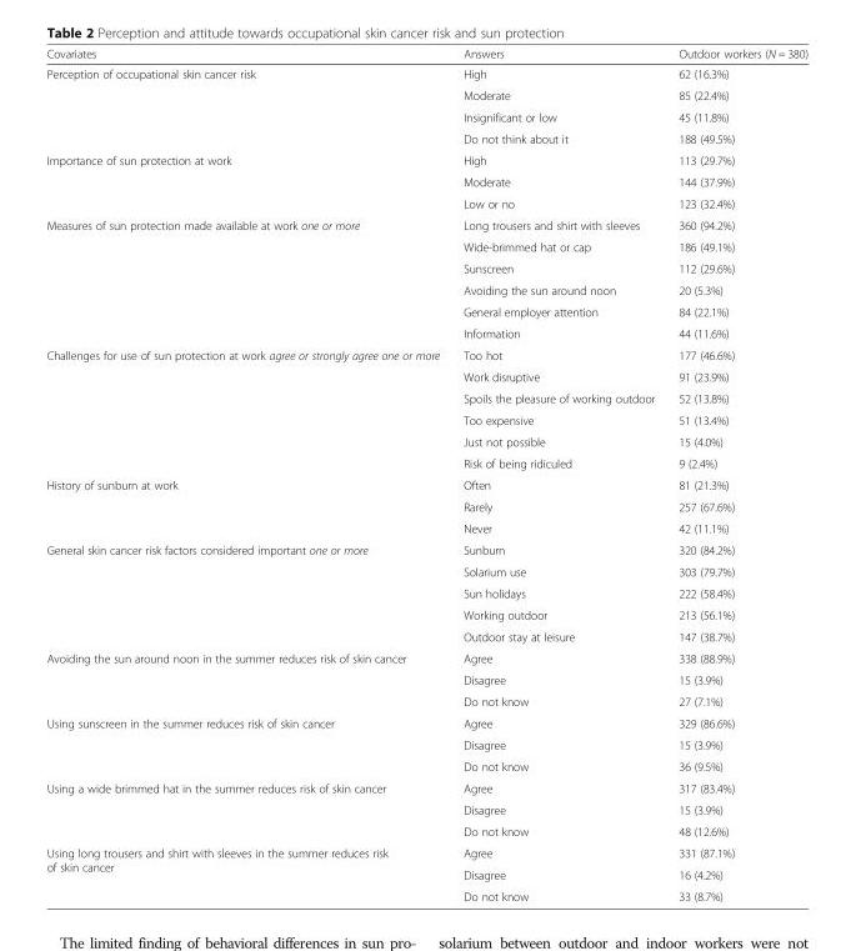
<table><thead><tr><td>Covariates</td><td>Answers</td><td>Outdoor workers (N = 380)</td></tr></thead><tbody><tr><td rowspan="4">Perception of occupational skin cancer risk</td><td>High</td><td>62 (16.3%)</td></tr><tr><td>Moderate</td><td>85 (22.4%)</td></tr><tr><td>Insignificant or low</td><td>45 (11.8%)</td></tr><tr><td>Do not think about it</td><td>188 (49.5%)</td></tr><tr><td rowspan="3">Importance of sun protection at work</td><td>High</td><td>113 (29.7%)</td></tr><tr><td>Moderate</td><td>144 (37.9%)</td></tr><tr><td>Low or no</td><td>123 (32.4%)</td></tr><tr><td rowspan="6">Measures of sun protection made available at work one or more</td><td>Long trousers and shirt with sleeves</td><td>360 (94.2%)</td></tr><tr><td>Wide-brimmed hat or cap</td><td>186 (49.1%)</td></tr><tr><td>Sunscreen</td><td>112 (29.6%)</td></tr><tr><td>Avoiding the sun around noon</td><td>20 (5.3%)</td></tr><tr><td>General employer attention</td><td>84 (22.1%)</td></tr><tr><td>Information</td><td>44 (11.6%)</td></tr><tr><td rowspan="6">Challenges for use of sun protection at work agree or strongly agree one or more</td><td>Too hot</td><td>177 (46.6%)</td></tr><tr><td>Work disruptive</td><td>91 (23.9%)</td></tr><tr><td>Spoils the pleasure of working outdoor</td><td>52 (13.8%)</td></tr><tr><td>Too expensive</td><td>51 (13.4%)</td></tr><tr><td>Just not possible</td><td>15 (4.0%)</td></tr><tr><td>Risk of being ridiculed</td><td>9 (2.4%)</td></tr><tr><td rowspan="3">History of sunburn at work</td><td>Often</td><td>81 (21.3%)</td></tr><tr><td>Rarely</td><td>257 (67.6%)</td></tr><tr><td>Never</td><td>42 (11.1%)</td></tr><tr><td rowspan="5">General skin cancer risk factors considered important one or more</td><td>Sunburn</td><td>320 (84.2%)</td></tr><tr><td>Solarium use</td><td>303 (79.7%)</td></tr><tr><td>Sun holidays</td><td>222 (58.4%)</td></tr><tr><td>Working outdoor</td><td>213 (56.1%)</td></tr><tr><td>Outdoor stay at leisure</td><td>147 (38.7%)</td></tr><tr><td rowspan="3">Avoiding the sun around noon in the summer reduces risk of skin cancer</td><td>Agree</td><td>338 (88.9%)</td></tr><tr><td>Disagree</td><td>15 (3.9%)</td></tr><tr><td>Do not know</td><td>27 (7.1%)</td></tr><tr><td rowspan="3">Using sunscreen in the summer reduces risk of skin cancer</td><td>Agree</td><td>329 (86.6%)</td></tr><tr><td>Disagree</td><td>15 (3.9%)</td></tr><tr><td>Do not know</td><td>36 (9.5%)</td></tr><tr><td rowspan="3">Using a wide brimmed hat in the summer reduces risk of skin cancer</td><td>Agree</td><td>317 (83.4%)</td></tr><tr><td>Disagree</td><td>15 (3.9%)</td></tr><tr><td>Do not know</td><td>48 (12.6%)</td></tr><tr><td rowspan="3">Using long trousers and shirt with sleeves in the summer reduces risk of skin cancer</td><td>Agree</td><td>331 (87.1%)</td></tr><tr><td>Disagree</td><td>16 (4.2%)</td></tr><tr><td>Do not know</td><td>33 (8.7%)</td></tr></tbody></table>